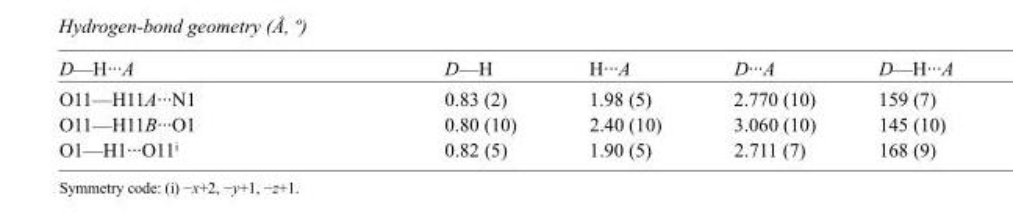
<table><tbody><tr><td>D—H···A</td><td>D—H</td><td>H···A</td><td>D···A</td><td>D—H···A</td></tr><tr><td>O11—H11A···N1</td><td>0.83 (2)</td><td>1.98 (5)</td><td>2.770 (10)</td><td>159 (7)</td></tr><tr><td>O11—H11B···O1</td><td>0.80 (10)</td><td>2.40 (10)</td><td>3.060 (10)</td><td>145 (10)</td></tr><tr><td>O1—H1···O11<sup>i</sup></td><td>0.82 (5)</td><td>1.90 (5)</td><td>2.711 (7)</td><td>168 (9)</td></tr></tbody></table>